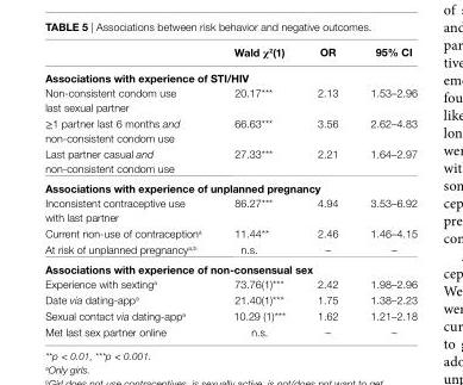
<table><thead><tr><td></td><td>Wald χ<sup>2</sup>(1)</td><td>Or</td><td>95% ci</td></tr></thead><tbody><tr><td colspan="4">associations with experience of sTi/hiV</td></tr><tr><td>Non-consistent condom use last sexual partner</td><td>20.17***</td><td>2.13</td><td>1.53–2.96</td></tr><tr><td>≥1 partner last 6 months and non-consistent condom use</td><td>66.63***</td><td>3.56</td><td>2.62–4.83</td></tr><tr><td>Last partner casual and non-consistent condom use</td><td>27.33***</td><td>2.21</td><td>1.64–2.97</td></tr><tr><td colspan="4">associations with experience of unplanned pregnancy</td></tr><tr><td>Inconsistent contraceptive use with last partner</td><td>86.27***</td><td>4.94</td><td>3.53–6.92</td></tr><tr><td>Current non-use of contraception<sup>a</sup></td><td>11.44**</td><td>2.46</td><td>1.46–4.15</td></tr><tr><td>At risk of unplanned pregnancy<sup>a,b</sup></td><td>n.s.</td><td>–</td><td>–</td></tr><tr><td colspan="4">associations with experience of non-consensual sex</td></tr><tr><td>Experience with sexting<sup>a</sup></td><td>73.76(1)***</td><td>2.42</td><td>1.98–2.96</td></tr><tr><td>Date via dating-app<sup>a</sup></td><td>21.40(1)***</td><td>1.75</td><td>1.38–2.23</td></tr><tr><td>Sexual contact via dating-app<sup>a</sup></td><td>10.29 (1)***</td><td>1.62</td><td>1.21–2.18</td></tr><tr><td>Met last sex partner online</td><td>n.s.</td><td>–</td><td>–</td></tr></tbody></table>